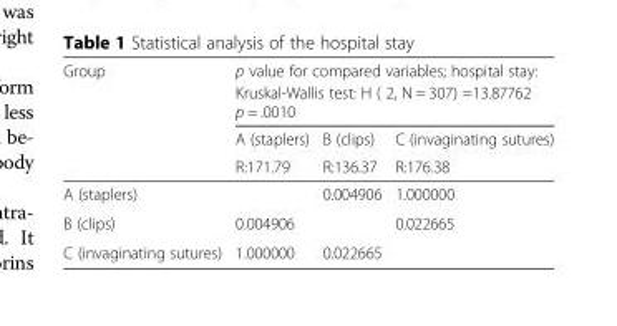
<table><thead><tr><td rowspan="4">Group</td><td rowspan="2" colspan="3">p value for compared variables; hospital stay: Kruskal-Wallis test: H ( 2, N = 307) =13.87762 p = .0010</td></tr><tr></tr><tr><td rowspan="2">A (staplers) R:171.79</td><td rowspan="2">B (clips) R:136.37</td><td rowspan="2">C (invaginating sutures) R:176.38</td></tr><tr></tr></thead><tbody><tr><td>A (staplers)</td><td></td><td>0.004906</td><td>1.000000</td></tr><tr><td>B (clips)</td><td>0.004906</td><td></td><td>0.022665</td></tr><tr><td>C (invaginating sutures)</td><td>1.000000</td><td>0.022665</td><td></td></tr></tbody></table>